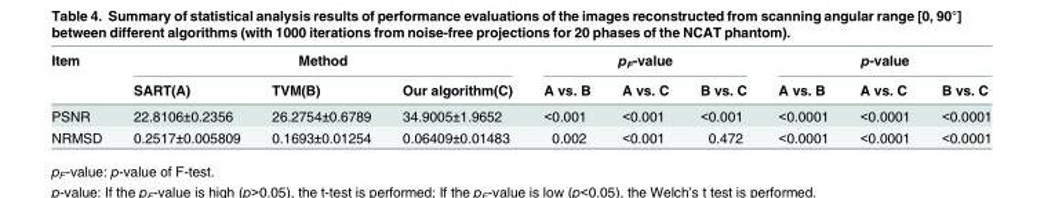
<table><thead><tr><td rowspan="2">Item</td><td colspan="3">Method</td><td colspan="3">p<sub>F</sub>-value</td><td colspan="3">p-value</td></tr><tr><td>SART(A)</td><td>TVM(B)</td><td>Our algorithm(C)</td><td>A vs. B</td><td>A vs. C</td><td>B vs. C</td><td>A vs. B</td><td>A vs. C</td><td>B vs. C</td></tr></thead><tbody><tr><td>PSNR</td><td>22.8106±0.2356</td><td>26.2754±0.6789</td><td>34.9005±1.9652</td><td>&lt;0.001</td><td>&lt;0.001</td><td>&lt;0.001</td><td>&lt;0.0001</td><td>&lt;0.0001</td><td>&lt;0.0001</td></tr><tr><td>NRMSD</td><td>0.2517±0.005809</td><td>0.1693±0.01254</td><td>0.06409±0.01483</td><td>0.002</td><td>&lt;0.001</td><td>0.472</td><td>&lt;0.0001</td><td>&lt;0.0001</td><td>&lt;0.0001</td></tr></tbody></table>